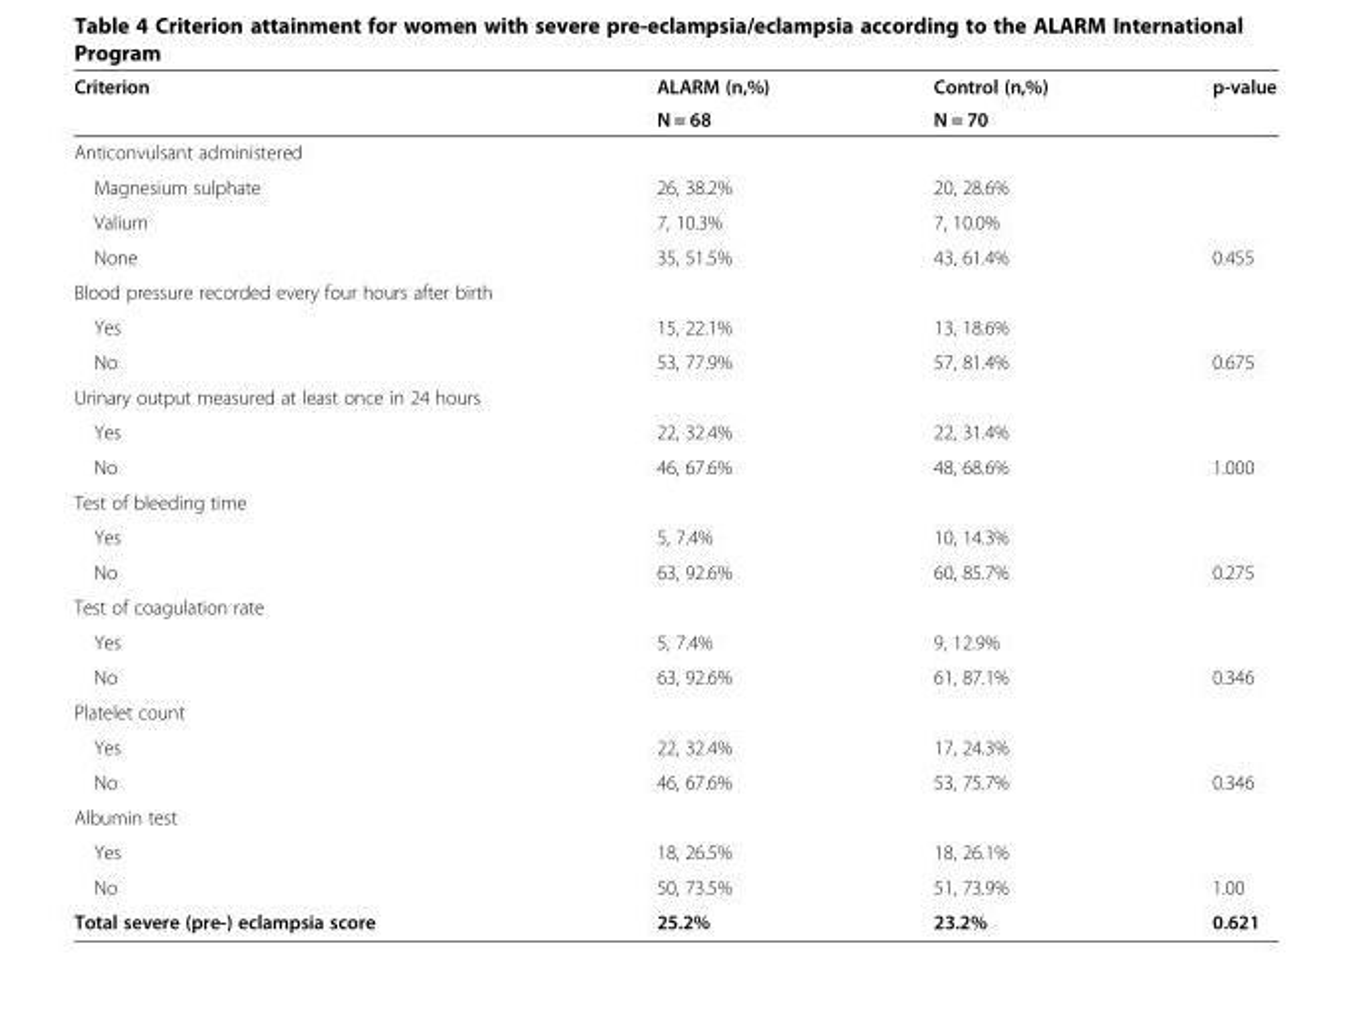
<table><thead><tr><td rowspan="2">Criterion</td><td rowspan="2">ALARM (n,%) N = 68</td><td rowspan="2">Control (n,%) N = 70</td><td rowspan="2">p-value</td></tr><tr></tr></thead><tbody><tr><td colspan="4">Anticonvulsant administered</td></tr><tr><td>Magnesium sulphate</td><td>26, 38.2%</td><td>20, 28.6%</td><td></td></tr><tr><td>Valium</td><td>7, 10.3%</td><td>7, 10.0%</td><td></td></tr><tr><td>None</td><td>35, 51.5%</td><td>43, 61.4%</td><td>0.455</td></tr><tr><td colspan="4">Blood pressure recorded every four hours after birth</td></tr><tr><td>Yes</td><td>15, 22.1%</td><td>13, 18.6%</td><td></td></tr><tr><td>No</td><td>53, 77.9%</td><td>57, 81.4%</td><td>0.675</td></tr><tr><td colspan="4">Urinary output measured at least once in 24 hours</td></tr><tr><td>Yes</td><td>22, 32.4%</td><td>22, 31.4%</td><td></td></tr><tr><td>No</td><td>46, 67.6%</td><td>48, 68.6%</td><td>1.000</td></tr><tr><td colspan="4">Test of bleeding time</td></tr><tr><td>Yes</td><td>5, 7.4%</td><td>10, 14.3%</td><td></td></tr><tr><td>No</td><td>63, 92.6%</td><td>60, 85.7%</td><td>0.275</td></tr><tr><td colspan="4">Test of coagulation rate</td></tr><tr><td>Yes</td><td>5, 7.4%</td><td>9, 12.9%</td><td></td></tr><tr><td>No</td><td>63, 92.6%</td><td>61, 87.1%</td><td>0.346</td></tr><tr><td colspan="4">Platelet count</td></tr><tr><td>Yes</td><td>22, 32.4%</td><td>17, 24.3%</td><td></td></tr><tr><td>No</td><td>46, 67.6%</td><td>53, 75.7%</td><td>0.346</td></tr><tr><td colspan="4">Albumin test</td></tr><tr><td>Yes</td><td>18, 26.5%</td><td>18, 26.1%</td><td></td></tr><tr><td>No</td><td>50, 73.5%</td><td>51, 73.9%</td><td>1.00</td></tr><tr><td>Total severe (pre-) eclampsia score</td><td>25.2%</td><td>23.2%</td><td>0.621</td></tr></tbody></table>